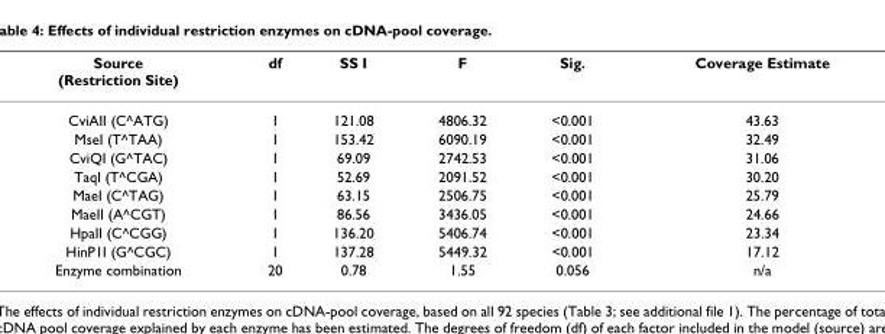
<table><thead><tr><td>Source (Restriction Site)</td><td>df</td><td>SS I</td><td>F</td><td>Sig.</td><td>Coverage Estimate</td></tr></thead><tbody><tr><td>CviAII (C^ATG)</td><td>1</td><td>121.08</td><td>4806.32</td><td>&lt;0.001</td><td>43.63</td></tr><tr><td>MseI (T^TAA)</td><td>1</td><td>153.42</td><td>6090.19</td><td>&lt;0.001</td><td>32.49</td></tr><tr><td>CviQI (G^TAC)</td><td>1</td><td>69.09</td><td>2742.53</td><td>&lt;0.001</td><td>31.06</td></tr><tr><td>TaqI (T^CGA)</td><td>1</td><td>52.69</td><td>2091.52</td><td>&lt;0.001</td><td>30.20</td></tr><tr><td>MaeI (C^TAG)</td><td>1</td><td>63.15</td><td>2506.75</td><td>&lt;0.001</td><td>25.79</td></tr><tr><td>MaeII (A^CGT)</td><td>1</td><td>86.56</td><td>3436.05</td><td>&lt;0.001</td><td>24.66</td></tr><tr><td>HpaII (C^CGG)</td><td>1</td><td>136.20</td><td>5406.74</td><td>&lt;0.001</td><td>23.34</td></tr><tr><td>HinP1I (G^CGC)</td><td>1</td><td>137.28</td><td>5449.32</td><td>&lt;0.001</td><td>17.12</td></tr><tr><td>Enzyme combination</td><td>20</td><td>0.78</td><td>1.55</td><td>0.056</td><td>n/a</td></tr></tbody></table>